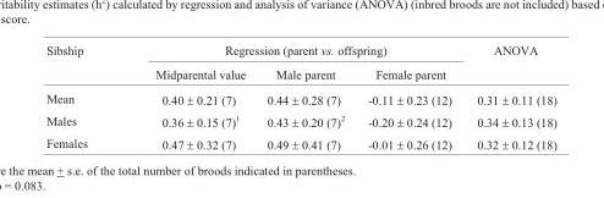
<table><thead><tr><td rowspan="2">Sibship</td><td colspan="3">Regression (parent vs. offspring)</td><td rowspan="2">ANOVA</td></tr><tr><td>Midparental value</td><td>Male parent</td><td>Female parent</td></tr></thead><tbody><tr><td>Mean</td><td>0.40 ± 0.21 (7)</td><td>0.44 ± 0.28 (7)</td><td>-0.11 ± 0.23 (12)</td><td>0.31 ± 0.11 (18)</td></tr><tr><td>Males</td><td>0.36 ± 0.15 (7)<sup>1</sup></td><td>0.43 ± 0.20 (7)<sup>2</sup></td><td>-0.20 ± 0.24 (12)</td><td>0.34 ± 0.13 (18)</td></tr><tr><td>Females</td><td>0.47 ± 0.32 (7)</td><td>0.49 ± 0.41 (7)</td><td>-0.01 ± 0.26 (12)</td><td>0.32 ± 0.12 (18)</td></tr></tbody></table>